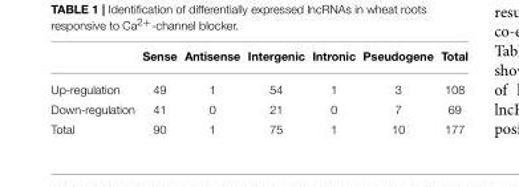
<table><thead><tr><td></td><td>Sense</td><td>Antisense</td><td>Intergenic</td><td>Intronic</td><td>Pseudogene</td><td>Total</td></tr></thead><tbody><tr><td>Up-regulation</td><td>49</td><td>1</td><td>54</td><td>1</td><td>3</td><td>108</td></tr><tr><td>Down-regulation</td><td>41</td><td>0</td><td>21</td><td>0</td><td>7</td><td>69</td></tr><tr><td>Total</td><td>90</td><td>1</td><td>75</td><td>1</td><td>10</td><td>177</td></tr></tbody></table>